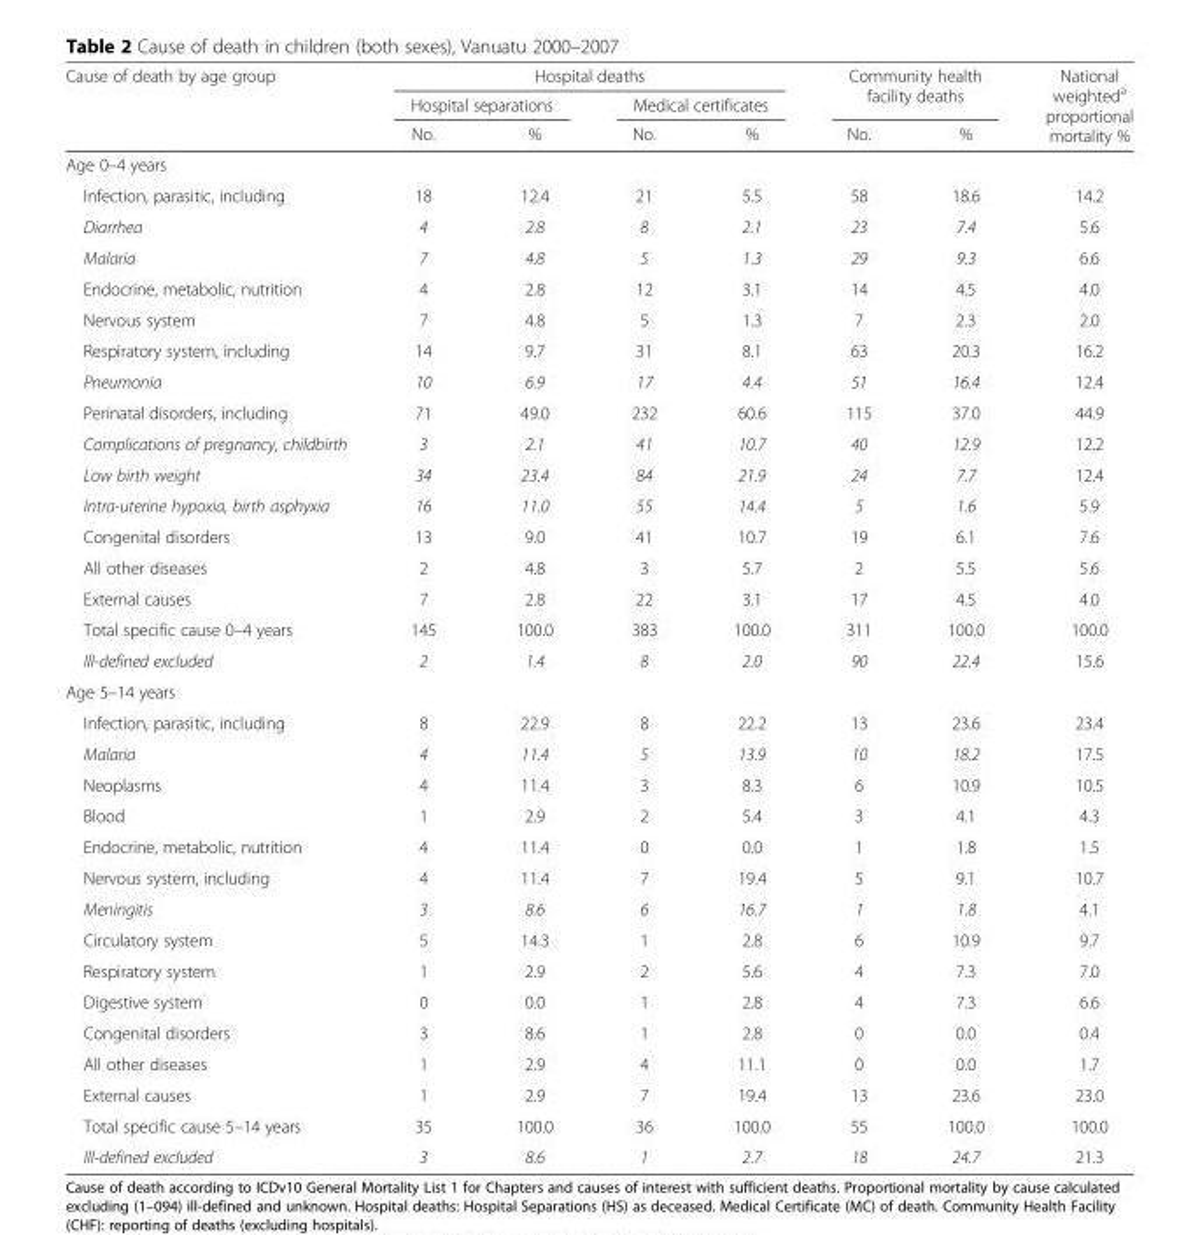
<table><thead><tr><td rowspan="3">Cause of death by age group</td><td colspan="4">Hospital deaths</td><td rowspan="2" colspan="2">Community health facility deaths</td><td rowspan="3">National weighted<sup>a</sup> proportional mortality %</td></tr><tr><td colspan="2">Hospital separations</td><td colspan="2">Medical certificates</td></tr><tr><td>No.</td><td>%</td><td>No.</td><td>%</td><td>No.</td><td>%</td></tr></thead><tbody><tr><td colspan="8">Age 0–4 years</td></tr><tr><td>Infection, parasitic, including</td><td>18</td><td>12.4</td><td>21</td><td>5.5</td><td>58</td><td>18.6</td><td>14.2</td></tr><tr><td>Diarrhea</td><td>4</td><td>2.8</td><td>8</td><td>2.1</td><td>23</td><td>7.4</td><td>5.6</td></tr><tr><td>Malaria</td><td>7</td><td>4.8</td><td>5</td><td>1.3</td><td>29</td><td>9.3</td><td>6.6</td></tr><tr><td>Endocrine, metabolic, nutrition</td><td>4</td><td>2.8</td><td>12</td><td>3.1</td><td>14</td><td>4.5</td><td>4.0</td></tr><tr><td>Nervous system</td><td>7</td><td>4.8</td><td>5</td><td>1.3</td><td>7</td><td>2.3</td><td>2.0</td></tr><tr><td>Respiratory system, including</td><td>14</td><td>9.7</td><td>31</td><td>8.1</td><td>63</td><td>20.3</td><td>16.2</td></tr><tr><td>Pneumonia</td><td>10</td><td>6.9</td><td>17</td><td>4.4</td><td>51</td><td>16.4</td><td>12.4</td></tr><tr><td>Perinatal disorders, including</td><td>71</td><td>49.0</td><td>232</td><td>60.6</td><td>115</td><td>37.0</td><td>44.9</td></tr><tr><td>Complications of pregnancy, childbirth</td><td>3</td><td>2.1</td><td>41</td><td>10.7</td><td>40</td><td>12.9</td><td>12.2</td></tr><tr><td>Low birth weight</td><td>34</td><td>23.4</td><td>84</td><td>21.9</td><td>24</td><td>7.7</td><td>12.4</td></tr><tr><td>Intra-uterine hypoxia, birth asphyxia</td><td>16</td><td>11.0</td><td>55</td><td>14.4</td><td>5</td><td>1.6</td><td>5.9</td></tr><tr><td>Congenital disorders</td><td>13</td><td>9.0</td><td>41</td><td>10.7</td><td>19</td><td>6.1</td><td>7.6</td></tr><tr><td>All other diseases</td><td>2</td><td>4.8</td><td>3</td><td>5.7</td><td>2</td><td>5.5</td><td>5.6</td></tr><tr><td>External causes</td><td>7</td><td>2.8</td><td>22</td><td>3.1</td><td>17</td><td>4.5</td><td>4.0</td></tr><tr><td>Total specific cause 0–4 years</td><td>145</td><td>100.0</td><td>383</td><td>100.0</td><td>311</td><td>100.0</td><td>100.0</td></tr><tr><td>Ill-defined excluded</td><td>2</td><td>1.4</td><td>8</td><td>2.0</td><td>90</td><td>22.4</td><td>15.6</td></tr><tr><td colspan="8">Age 5–14 years</td></tr><tr><td>Infection, parasitic, including</td><td>8</td><td>22.9</td><td>8</td><td>22.2</td><td>13</td><td>23.6</td><td>23.4</td></tr><tr><td>Malaria</td><td>4</td><td>11.4</td><td>5</td><td>13.9</td><td>10</td><td>18.2</td><td>17.5</td></tr><tr><td>Neoplasms</td><td>4</td><td>11.4</td><td>3</td><td>8.3</td><td>6</td><td>10.9</td><td>10.5</td></tr><tr><td>Blood</td><td>1</td><td>2.9</td><td>2</td><td>5.4</td><td>3</td><td>4.1</td><td>4.3</td></tr><tr><td>Endocrine, metabolic, nutrition</td><td>4</td><td>11.4</td><td>0</td><td>0.0</td><td>1</td><td>1.8</td><td>1.5</td></tr><tr><td>Nervous system, including</td><td>4</td><td>11.4</td><td>7</td><td>19.4</td><td>5</td><td>9.1</td><td>10.7</td></tr><tr><td>Meningitis</td><td>3</td><td>8.6</td><td>6</td><td>16.7</td><td>1</td><td>1.8</td><td>4.1</td></tr><tr><td>Circulatory system</td><td>5</td><td>14.3</td><td>1</td><td>2.8</td><td>6</td><td>10.9</td><td>9.7</td></tr><tr><td>Respiratory system</td><td>1</td><td>2.9</td><td>2</td><td>5.6</td><td>4</td><td>7.3</td><td>7.0</td></tr><tr><td>Digestive system</td><td>0</td><td>0.0</td><td>1</td><td>2.8</td><td>4</td><td>7.3</td><td>6.6</td></tr><tr><td>Congenital disorders</td><td>3</td><td>8.6</td><td>1</td><td>2.8</td><td>0</td><td>0.0</td><td>0.4</td></tr><tr><td>All other diseases</td><td>1</td><td>2.9</td><td>4</td><td>11.1</td><td>0</td><td>0.0</td><td>1.7</td></tr><tr><td>External causes</td><td>1</td><td>2.9</td><td>7</td><td>19.4</td><td>13</td><td>23.6</td><td>23.0</td></tr><tr><td>Total specific cause 5–14 years</td><td>35</td><td>100.0</td><td>36</td><td>100.0</td><td>55</td><td>100.0</td><td>100.0</td></tr><tr><td>Ill-defined excluded</td><td>3</td><td>8.6</td><td>1</td><td>2.7</td><td>18</td><td>24.7</td><td>21.3</td></tr></tbody></table>